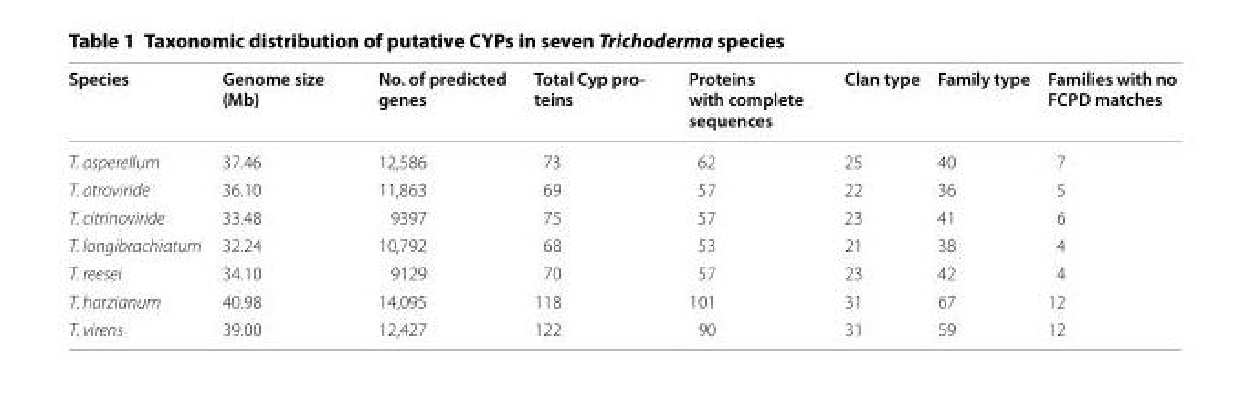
<table><thead><tr><td>Species</td><td>Genome size (Mb)</td><td>No. of predicted genes</td><td>Total Cyp pro- teins</td><td>Proteins with complete sequences</td><td>Clan type</td><td>Family type</td><td>Families with no FCPD matches</td></tr></thead><tbody><tr><td>T. asperellum</td><td>37.46</td><td>12,586</td><td>73</td><td>62</td><td>25</td><td>40</td><td>7</td></tr><tr><td>T. atroviride</td><td>36.10</td><td>11,863</td><td>69</td><td>57</td><td>22</td><td>36</td><td>5</td></tr><tr><td>T. citrinoviride</td><td>33.48</td><td>9397</td><td>75</td><td>57</td><td>23</td><td>41</td><td>6</td></tr><tr><td>T. longibrachiatum</td><td>32.24</td><td>10,792</td><td>68</td><td>53</td><td>21</td><td>38</td><td>4</td></tr><tr><td>T. reesei</td><td>34.10</td><td>9129</td><td>70</td><td>57</td><td>23</td><td>42</td><td>4</td></tr><tr><td>T. harzianum</td><td>40.98</td><td>14,095</td><td>118</td><td>101</td><td>31</td><td>67</td><td>12</td></tr><tr><td>T. virens</td><td>39.00</td><td>12,427</td><td>122</td><td>90</td><td>31</td><td>59</td><td>12</td></tr></tbody></table>